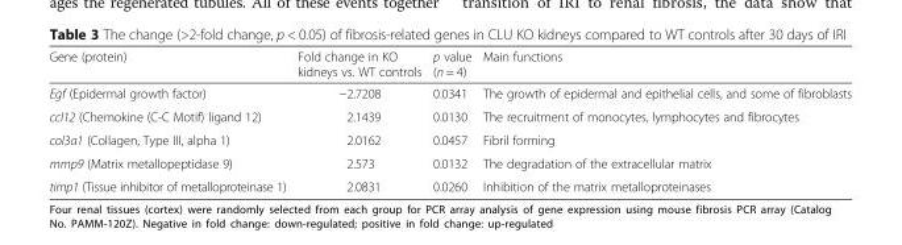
<table><thead><tr><td>Gene (protein)</td><td>Fold change in KO kidneys vs. WT controls</td><td>p value (n = 4)</td><td>Main functions</td></tr></thead><tbody><tr><td>Egf (Epidermal growth factor)</td><td>−2.7208</td><td>0.0341</td><td>The growth of epidermal and epithelial cells, and some of fibroblasts</td></tr><tr><td>ccl12 (Chemokine (C-C Motif) ligand 12)</td><td>2.1439</td><td>0.0130</td><td>The recruitment of monocytes, lymphocytes and fibrocytes</td></tr><tr><td>col3a1 (Collagen, Type III, alpha 1)</td><td>2.0162</td><td>0.0457</td><td>Fibril forming</td></tr><tr><td>mmp9 (Matrix metallopeptidase 9)</td><td>2.573</td><td>0.0132</td><td>The degradation of the extracellular matrix</td></tr><tr><td>timp1 (Tissue inhibitor of metalloproteinase 1)</td><td>2.0831</td><td>0.0260</td><td>Inhibition of the matrix metalloproteinases</td></tr></tbody></table>